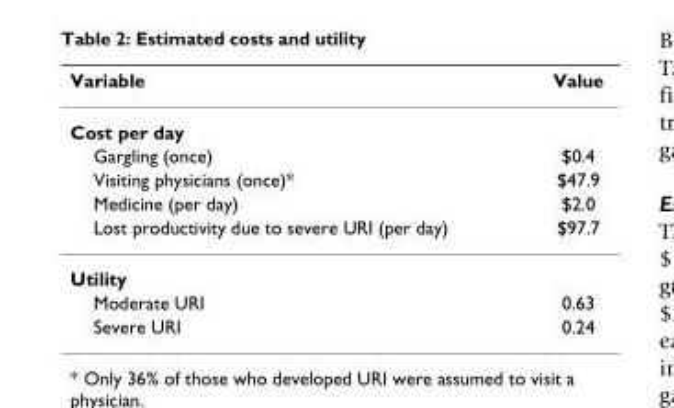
<table><thead><tr><td>Variable</td><td>Value</td></tr></thead><tbody><tr><td colspan="2">Cost per day</td></tr><tr><td>Gargling (once)</td><td>$0.4</td></tr><tr><td>Visiting physicians (once)*</td><td>$47.9</td></tr><tr><td>Medicine (per day)</td><td>$2.0</td></tr><tr><td>Lost productivity due to severe URI (per day)</td><td>$97.7</td></tr><tr><td colspan="2">Utility</td></tr><tr><td>Moderate URI</td><td>0.63</td></tr><tr><td>Severe URI</td><td>0.24</td></tr></tbody></table>